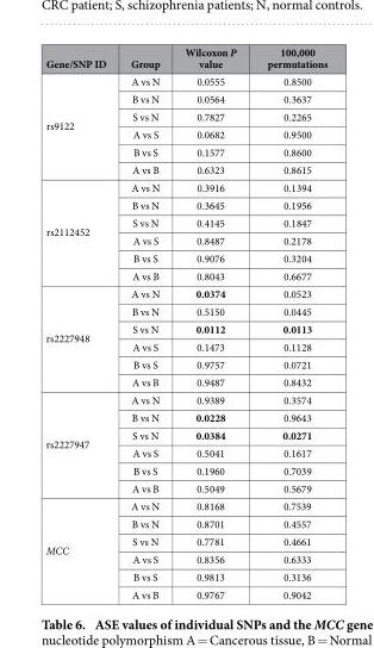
<table><thead><tr><td>Gene/SNP ID</td><td>Group</td><td>Wilcoxon P value</td><td>100,000 permutations</td></tr></thead><tbody><tr><td rowspan="6">rs9122</td><td>A vs N</td><td>0.0555</td><td>0.8500</td></tr><tr><td>B vs N</td><td>0.0564</td><td>0.3637</td></tr><tr><td>S vs N</td><td>0.7827</td><td>0.2265</td></tr><tr><td>A vs S</td><td>0.0682</td><td>0.9500</td></tr><tr><td>B vs S</td><td>0.1577</td><td>0.8600</td></tr><tr><td>A vs B</td><td>0.6323</td><td>0.8615</td></tr><tr><td rowspan="6">rs2112452</td><td>A vs N</td><td>0.3916</td><td>0.1394</td></tr><tr><td>B vs N</td><td>0.3645</td><td>0.1956</td></tr><tr><td>S vs N</td><td>0.4145</td><td>0.1847</td></tr><tr><td>A vs S</td><td>0.8487</td><td>0.2178</td></tr><tr><td>B vs S</td><td>0.9076</td><td>0.3204</td></tr><tr><td>A vs B</td><td>0.8043</td><td>0.6677</td></tr><tr><td rowspan="6">rs2227948</td><td>A vs N</td><td>0.0374</td><td>0.0523</td></tr><tr><td>B vs N</td><td>0.5150</td><td>0.0445</td></tr><tr><td>S vs N</td><td>0.0112</td><td>0.0113</td></tr><tr><td>A vs S</td><td>0.1473</td><td>0.1128</td></tr><tr><td>B vs S</td><td>0.9757</td><td>0.0721</td></tr><tr><td>A vs B</td><td>0.9487</td><td>0.8432</td></tr><tr><td rowspan="6">rs2227947</td><td>A vs N</td><td>0.9389</td><td>0.3574</td></tr><tr><td>B vs N</td><td>0.0228</td><td>0.9643</td></tr><tr><td>S vs N</td><td>0.0384</td><td>0.0271</td></tr><tr><td>A vs S</td><td>0.5041</td><td>0.1617</td></tr><tr><td>B vs S</td><td>0.1960</td><td>0.7039</td></tr><tr><td>A vs B</td><td>0.5049</td><td>0.5679</td></tr><tr><td rowspan="6">MCC</td><td>A vs N</td><td>0.8168</td><td>0.7539</td></tr><tr><td>B vs N</td><td>0.8701</td><td>0.4557</td></tr><tr><td>S vs N</td><td>0.7781</td><td>0.4661</td></tr><tr><td>A vs S</td><td>0.8356</td><td>0.6333</td></tr><tr><td>B vs S</td><td>0.9813</td><td>0.3136</td></tr><tr><td>A vs B</td><td>0.9767</td><td>0.9042</td></tr></tbody></table>